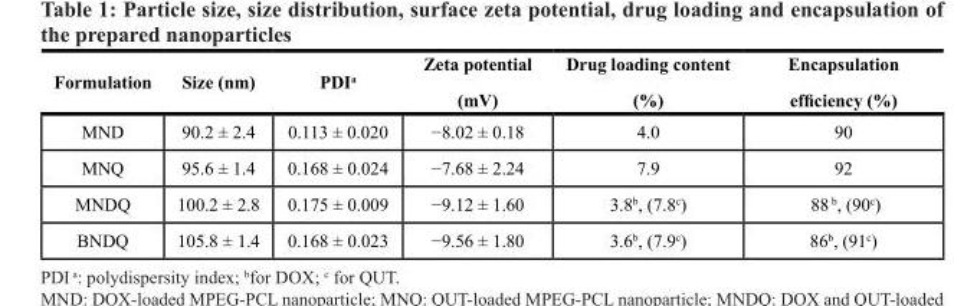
<table><thead><tr><td>Formulation</td><td>Size (nm)</td><td>PDI<sup>a</sup></td><td>Zeta potential (mV)</td><td>Drug loading content (%)</td><td>Encapsulation efficiency (%)</td></tr></thead><tbody><tr><td>MND</td><td>90.2 ± 2.4</td><td>0.113 ± 0.020</td><td>−8.02 ± 0.18</td><td>4.0</td><td>90</td></tr><tr><td>MNQ</td><td>95.6 ± 1.4</td><td>0.168 ± 0.024</td><td>−7.68 ± 2.24</td><td>7.9</td><td>92</td></tr><tr><td>MNDQ</td><td>100.2 ± 2.8</td><td>0.175 ± 0.009</td><td>−9.12 ± 1.60</td><td>3.8<sup>b</sup>, (7.8<sup>c</sup>)</td><td>88 <sup>b</sup>, (90<sup>c</sup>)</td></tr><tr><td>BNDQ</td><td>105.8 ± 1.4</td><td>0.168 ± 0.023</td><td>−9.56 ± 1.80</td><td>3.6<sup>b</sup>, (7.9<sup>c</sup>)</td><td>86<sup>b</sup>, (91<sup>c</sup>)</td></tr></tbody></table>